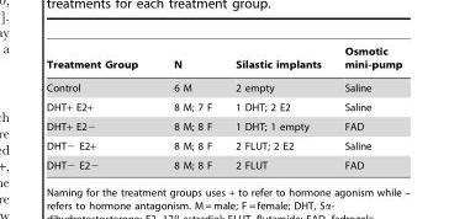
<table><thead><tr><td>Treatment Group</td><td>N</td><td>Silastic implants</td><td>Osmotic mini-pump</td></tr></thead><tbody><tr><td>Control</td><td>6 M</td><td>2 empty</td><td>Saline</td></tr><tr><td>DHT+ E2+</td><td>8 M; 7 F</td><td>1 DHT; 2 E2</td><td>Saline</td></tr><tr><td>DHT+ E2−</td><td>8 M; 8 F</td><td>1 DHT; 1 empty</td><td>FAD</td></tr><tr><td>DHT− E2+</td><td>8 M; 8 F</td><td>2 FLUT; 2 E2</td><td>Saline</td></tr><tr><td>DHT− E2−</td><td>8 M; 8 F</td><td>2 FLUT</td><td>FAD</td></tr></tbody></table>